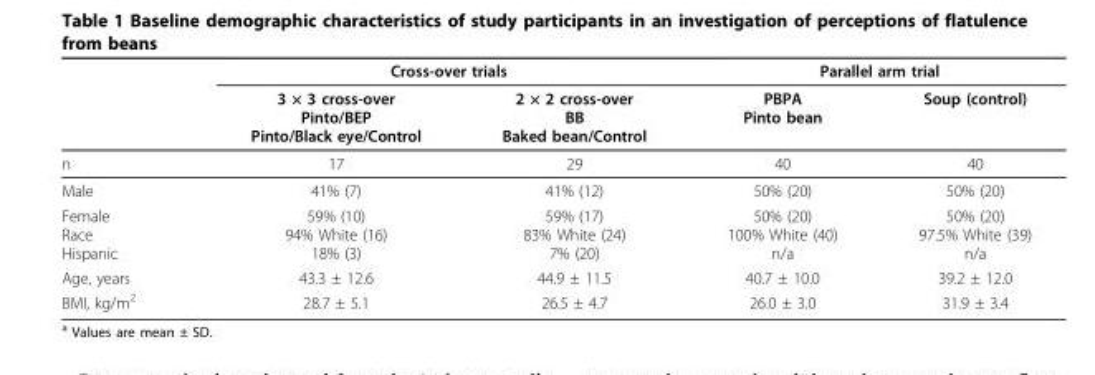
<table><thead><tr><td rowspan="2"></td><td colspan="2">Cross-over trials</td><td colspan="2">Parallel arm trial</td></tr><tr><td>3 × 3 cross-over Pinto/BEP Pinto/Black eye/Control</td><td>2 × 2 cross-over BB Baked bean/Control</td><td>PBPA Pinto bean</td><td>Soup (control)</td></tr></thead><tbody><tr><td>n</td><td>17</td><td>29</td><td>40</td><td>40</td></tr><tr><td>Male</td><td>41% (7)</td><td>41% (12)</td><td>50% (20)</td><td>50% (20)</td></tr><tr><td>Female Race Hispanic</td><td>59% (10) 94% White (16) 18% (3)</td><td>59% (17) 83% White (24) 7% (20)</td><td>50% (20) 100% White (40) n/a</td><td>50% (20) 97.5% White (39) n/a</td></tr><tr><td>Age, years</td><td>43.3 ± 12.6</td><td>44.9 ± 11.5</td><td>40.7 ± 10.0</td><td>39.2 ± 12.0</td></tr><tr><td>BMI, kg/m<sup>2</sup></td><td>28.7 ± 5.1</td><td>26.5 ± 4.7</td><td>26.0 ± 3.0</td><td>31.9 ± 3.4</td></tr></tbody></table>